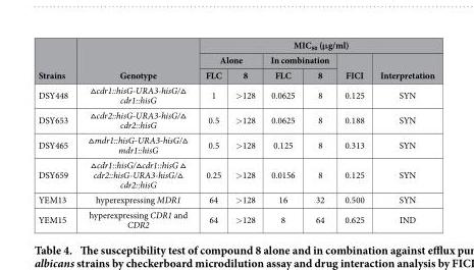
<table><thead><tr><td rowspan="3">Strains</td><td rowspan="3">Genotype</td><td colspan="6">MIC<sub>80</sub> (μg/ml)</td></tr><tr><td colspan="2">Alone</td><td colspan="2">In combination</td><td rowspan="2">FICI</td><td rowspan="2">Interpretation</td></tr><tr><td>FLC</td><td>8</td><td>FLC</td><td>8</td></tr></thead><tbody><tr><td>DSY448</td><td>▵ cdr1::hisG-URA3-hisG/▵ cdr1::hisG</td><td>1</td><td>&gt; 128</td><td>0.0625</td><td>8</td><td>0.125</td><td>SYN</td></tr><tr><td>DSY653</td><td>▵ cdr2::hisG-URA3-hisG/▵ cdr2::hisG</td><td>0.5</td><td>&gt; 128</td><td>0.0625</td><td>8</td><td>0.188</td><td>SYN</td></tr><tr><td>DSY465</td><td>▵ mdr1::hisG-URA3-hisG/▵ mdr1::hisG</td><td>0.5</td><td>&gt; 128</td><td>0.125</td><td>8</td><td>0.313</td><td>SYN</td></tr><tr><td>DSY659</td><td>▵ cdr1::hisG/▵ cdr1::hisG ▵ cdr2::hisG-URA3-hisG/▵ cdr2::hisG</td><td>0.25</td><td>&gt; 128</td><td>0.0156</td><td>8</td><td>0.125</td><td>SYN</td></tr><tr><td>YEM13</td><td>hyperexpressing MDR1</td><td>64</td><td>&gt; 128</td><td>16</td><td>32</td><td>0.500</td><td>SYN</td></tr><tr><td>YEM15</td><td>hyperexpressing CDR1 and CDR2</td><td>64</td><td>&gt; 128</td><td>8</td><td>64</td><td>0.625</td><td>IND</td></tr></tbody></table>